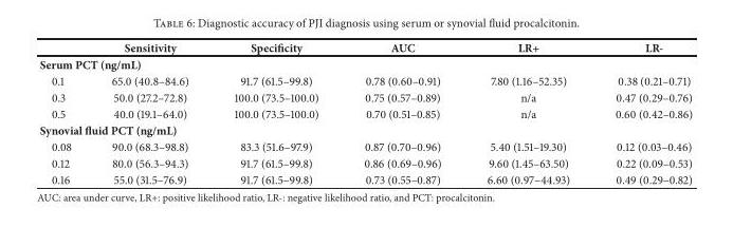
<table><thead><tr><td></td><td>Sensitivity</td><td>Specificity</td><td>AUC</td><td>LR+</td><td>LR-</td></tr></thead><tbody><tr><td colspan="6">Serum PCT (ng/mL)</td></tr><tr><td>0.1</td><td>65.0 (40.8–84.6)</td><td>91.7 (61.5–99.8)</td><td>0.78 (0.60–0.91)</td><td>7.80 (1.16–52.35)</td><td>0.38 (0.21–0.71)</td></tr><tr><td>0.3</td><td>50.0 (27.2–72.8)</td><td>100.0 (73.5–100.0)</td><td>0.75 (0.57–0.89)</td><td>n/a</td><td>0.47 (0.29–0.76)</td></tr><tr><td>0.5</td><td>40.0 (19.1–64.0)</td><td>100.0 (73.5–100.0)</td><td>0.70 (0.51–0.85)</td><td>n/a</td><td>0.60 (0.42–0.86)</td></tr><tr><td colspan="6">Synovial fluid PCT (ng/mL)</td></tr><tr><td>0.08</td><td>90.0 (68.3–98.8)</td><td>83.3 (51.6–97.9)</td><td>0.87 (0.70–0.96)</td><td>5.40 (1.51–19.30)</td><td>0.12 (0.03–0.46)</td></tr><tr><td>0.12</td><td>80.0 (56.3–94.3)</td><td>91.7 (61.5–99.8)</td><td>0.86 (0.69–0.96)</td><td>9.60 (1.45–63.50)</td><td>0.22 (0.09–0.53)</td></tr><tr><td>0.16</td><td>55.0 (31.5–76.9)</td><td>91.7 (61.5–99.8)</td><td>0.73 (0.55–0.87)</td><td>6.60 (0.97–44.93)</td><td>0.49 (0.29–0.82)</td></tr></tbody></table>